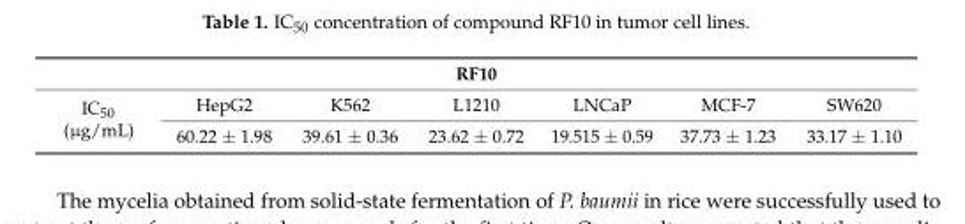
<table><thead><tr><td></td><td></td><td></td><td>RF10</td><td></td><td></td><td></td></tr></thead><tbody><tr><td rowspan="2">IC<sub>50</sub> (µg/mL)</td><td>HepG2</td><td>K562</td><td>L1210</td><td>LNCaP</td><td>MCF-7</td><td>SW620</td></tr><tr><td>60.22 ± 1.98</td><td>39.61 ± 0.36</td><td>23.62 ± 0.72</td><td>19.515 ± 0.59</td><td>37.73 ± 1.23</td><td>33.17 ± 1.10</td></tr></tbody></table>